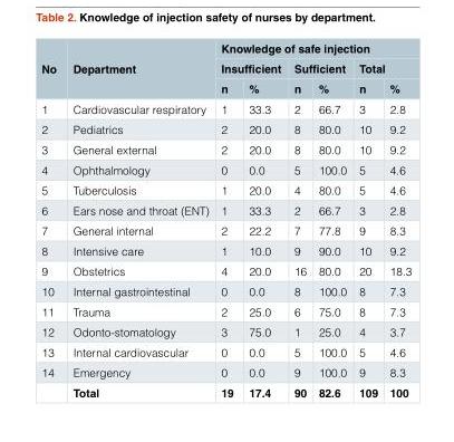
<table><thead><tr><td rowspan="3">No</td><td rowspan="3">Department</td><td colspan="6">Knowledge of safe injection</td></tr><tr><td colspan="2">Insufficient</td><td colspan="2">Sufficient</td><td colspan="2">Total</td></tr><tr><td>n</td><td>%</td><td>n</td><td>%</td><td>n</td><td>%</td></tr></thead><tbody><tr><td>1</td><td>Cardiovascular respiratory</td><td>1</td><td>33.3</td><td>2</td><td>66.7</td><td>3</td><td>2.8</td></tr><tr><td>2</td><td>Pediatrics</td><td>2</td><td>20.0</td><td>8</td><td>80.0</td><td>10</td><td>9.2</td></tr><tr><td>3</td><td>General external</td><td>2</td><td>20.0</td><td>8</td><td>80.0</td><td>10</td><td>9.2</td></tr><tr><td>4</td><td>Ophthalmology</td><td>0</td><td>0.0</td><td>5</td><td>100.0</td><td>5</td><td>4.6</td></tr><tr><td>5</td><td>Tuberculosis</td><td>1</td><td>20.0</td><td>4</td><td>80.0</td><td>5</td><td>4.6</td></tr><tr><td>6</td><td>Ears nose and throat (ENT)</td><td>1</td><td>33.3</td><td>2</td><td>66.7</td><td>3</td><td>2.8</td></tr><tr><td>7</td><td>General internal</td><td>2</td><td>22.2</td><td>7</td><td>77.8</td><td>9</td><td>8.3</td></tr><tr><td>8</td><td>Intensive care</td><td>1</td><td>10.0</td><td>9</td><td>90.0</td><td>10</td><td>9.2</td></tr><tr><td>9</td><td>Obstetrics</td><td>4</td><td>20.0</td><td>16</td><td>80.0</td><td>20</td><td>18.3</td></tr><tr><td>10</td><td>Internal gastrointestinal</td><td>0</td><td>0.0</td><td>8</td><td>100.0</td><td>8</td><td>7.3</td></tr><tr><td>11</td><td>Trauma</td><td>2</td><td>25.0</td><td>6</td><td>75.0</td><td>8</td><td>7.3</td></tr><tr><td>12</td><td>Odonto-stomatology</td><td>3</td><td>75.0</td><td>1</td><td>25.0</td><td>4</td><td>3.7</td></tr><tr><td>13</td><td>Internal cardiovascular</td><td>0</td><td>0.0</td><td>5</td><td>100.0</td><td>5</td><td>4.6</td></tr><tr><td rowspan="2">14</td><td>Emergency</td><td>0</td><td>0.0</td><td>9</td><td>100.0</td><td>9</td><td>8.3</td></tr><tr><td>Total</td><td>19</td><td>17.4</td><td>90</td><td>82.6</td><td>109</td><td>100</td></tr></tbody></table>